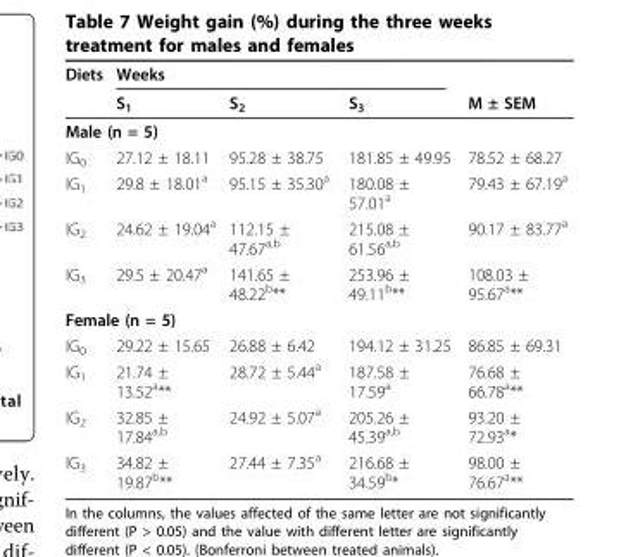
<table><thead><tr><td rowspan="2">Diets</td><td colspan="3">Weeks</td><td rowspan="2">M ± SEM</td></tr><tr><td>S<sub>1</sub></td><td>S<sub>2</sub></td><td>S<sub>3</sub></td></tr></thead><tbody><tr><td colspan="5">Male (n = 5)</td></tr><tr><td>IG<sub>0</sub></td><td>27.12 ± 18.11</td><td>95.28 ± 38.75</td><td>181.85 ± 49.95</td><td>78.52 ± 68.27</td></tr><tr><td>IG<sub>1</sub></td><td>29.8 ± 18.01<sup>a</sup></td><td>95.15 ± 35.30<sup>a</sup></td><td>180.08 ± 57.01<sup>a</sup></td><td>79.43 ± 67.19<sup>a</sup></td></tr><tr><td>IG<sub>2</sub></td><td>24.62 ± 19.04<sup>a</sup></td><td>112.15 ± 47.67<sup>a,b</sup></td><td>215.08 ± 61.56<sup>a,b</sup></td><td>90.17 ± 83.77<sup>a</sup></td></tr><tr><td>IG<sub>3</sub></td><td>29.5 ± 20.47<sup>a</sup></td><td>141.65 ± 48.22<sup>b</sup>**</td><td>253.96 ± 49.11<sup>b</sup>**</td><td>108.03 ± 95.67<sup>a</sup>**</td></tr><tr><td colspan="5">Female (n = 5)</td></tr><tr><td>IG<sub>0</sub></td><td>29.22 ± 15.65</td><td>26.88 ± 6.42</td><td>194.12 ± 31.25</td><td>86.85 ± 69.31</td></tr><tr><td>IG<sub>1</sub></td><td>21.74 ± 13.52<sup>a</sup>**</td><td>28.72 ± 5.44<sup>a</sup></td><td>187.58 ± 17.59<sup>a</sup></td><td>76.68 ± 66.78<sup>a</sup>**</td></tr><tr><td>IG<sub>2</sub></td><td>32.85 ± 17.84<sup>a,b</sup></td><td>24.92 ± 5.07<sup>a</sup></td><td>205.26 ± 45.39<sup>a,b</sup></td><td>93.20 ± 72.93<sup>a</sup>*</td></tr><tr><td>IG<sub>3</sub></td><td>34.82 ± 19.87<sup>b</sup>**</td><td>27.44 ± 7.35<sup>a</sup></td><td>216.68 ± 34.59<sup>b</sup>*</td><td>98.00 ± 76.67<sup>a</sup>**</td></tr></tbody></table>